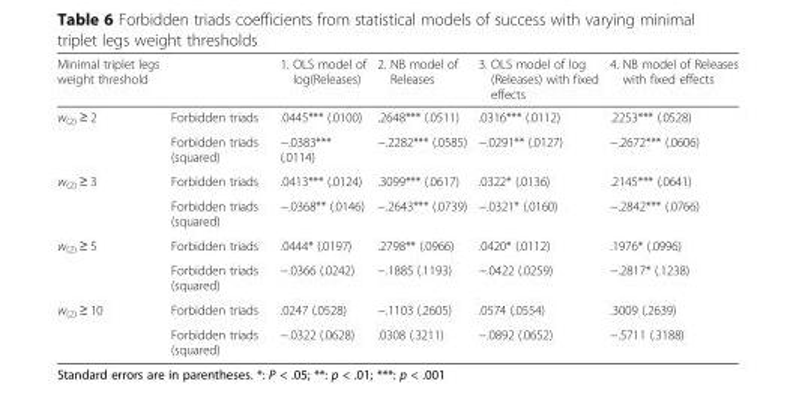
<table><thead><tr><td>Minimal triplet legs weight threshold</td><td></td><td>1. OLS model of log(Releases)</td><td>2. NB model of Releases</td><td>3. OLS model of log (Releases) with fixed effects</td><td>4. NB model of Releases with fixed effects</td></tr></thead><tbody><tr><td rowspan="2">w<sub>(2)</sub> ≥ 2</td><td>Forbidden triads</td><td>.0445*** (.0100)</td><td>.2648*** (.0511)</td><td>.0316*** (.0112)</td><td>.2253*** (.0528)</td></tr><tr><td>Forbidden triads (squared)</td><td>−.0383*** (.0114)</td><td>−.2282*** (.0585)</td><td>−.0291** (.0127)</td><td>−.2672*** (.0606)</td></tr><tr><td rowspan="2">w<sub>(2)</sub> ≥ 3</td><td>Forbidden triads</td><td>.0413*** (.0124)</td><td>.3099*** (.0617)</td><td>.0322* (.0136)</td><td>.2145*** (.0641)</td></tr><tr><td>Forbidden triads (squared)</td><td>−.0368** (.0146)</td><td>−.2643*** (.0739)</td><td>−.0321* (.0160)</td><td>−.2842*** (.0766)</td></tr><tr><td rowspan="2">w<sub>(2)</sub> ≥ 5</td><td>Forbidden triads</td><td>.0444* (.0197)</td><td>.2798** (.0966)</td><td>.0420* (.0112)</td><td>.1976* (.0996)</td></tr><tr><td>Forbidden triads (squared)</td><td>−.0366 (.0242)</td><td>−.1885 (.1193)</td><td>−.0422 (.0259)</td><td>−.2817* (.1238)</td></tr><tr><td rowspan="2">w<sub>(2)</sub> ≥ 10</td><td>Forbidden triads</td><td>.0247 (.0528)</td><td>−.1103 (.2605)</td><td>.0574 (.0554)</td><td>.3009 (.2639)</td></tr><tr><td>Forbidden triads (squared)</td><td>−.0322 (.0628)</td><td>.0308 (.3211)</td><td>−.0892 (.0652)</td><td>−.5711 (.3188)</td></tr></tbody></table>